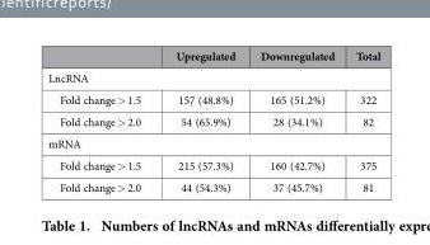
<table><thead><tr><td></td><td>Upregulated</td><td>Downregulated</td><td>Total</td></tr></thead><tbody><tr><td colspan="4">LncRNA</td></tr><tr><td>Fold change &gt; 1.5</td><td>157 (48.8%)</td><td>165 (51.2%)</td><td>322</td></tr><tr><td>Fold change &gt; 2.0</td><td>54 (65.9%)</td><td>28 (34.1%)</td><td>82</td></tr><tr><td colspan="4">mRNA</td></tr><tr><td>Fold change &gt; 1.5</td><td>215 (57.3%)</td><td>160 (42.7%)</td><td>375</td></tr><tr><td>Fold change &gt; 2.0</td><td>44 (54.3%)</td><td>37 (45.7%)</td><td>81</td></tr></tbody></table>